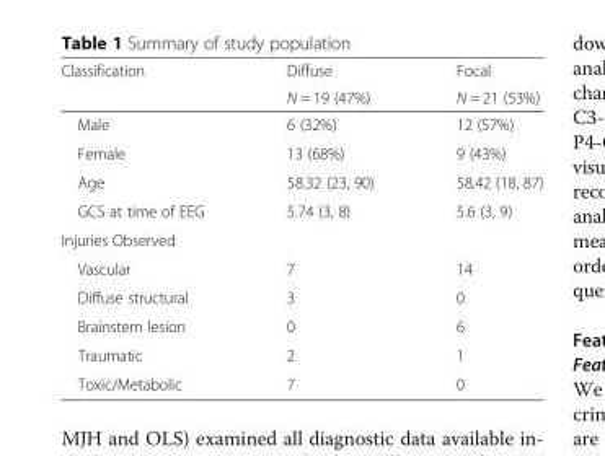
<table><thead><tr><td rowspan="2">Classification</td><td rowspan="2">Diffuse N = 19 (47%)</td><td rowspan="2">Focal N = 21 (53%)</td></tr><tr></tr></thead><tbody><tr><td>Male</td><td>6 (32%)</td><td>12 (57%)</td></tr><tr><td>Female</td><td>13 (68%)</td><td>9 (43%)</td></tr><tr><td>Age</td><td>58.32 (23, 90)</td><td>58.42 (18, 87)</td></tr><tr><td>GCS at time of EEG</td><td>5.74 (3, 8)</td><td>5.6 (3, 9)</td></tr><tr><td colspan="3">Injuries Observed</td></tr><tr><td>Vascular</td><td>7</td><td>14</td></tr><tr><td>Diffuse structural</td><td>3</td><td>0</td></tr><tr><td>Brainstem lesion</td><td>0</td><td>6</td></tr><tr><td>Traumatic</td><td>2</td><td>1</td></tr><tr><td>Toxic/Metabolic</td><td>7</td><td>0</td></tr></tbody></table>